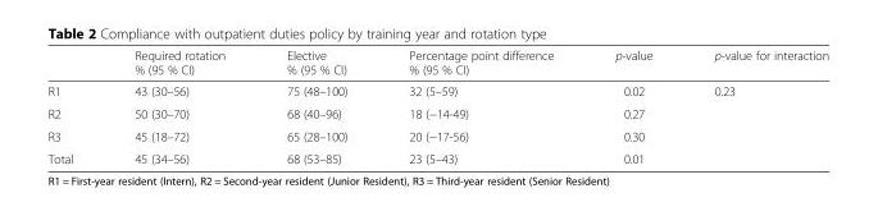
<table><thead><tr><td></td><td>Required rotation % (95 % CI)</td><td>Elective % (95 % CI)</td><td>Percentage point difference % (95 % CI)</td><td>p-value</td><td>p-value for interaction</td></tr></thead><tbody><tr><td>R1</td><td>43 (30–56)</td><td>75 (48–100)</td><td>32 (5–59)</td><td>0.02</td><td rowspan="3">0.23</td></tr><tr><td>R2</td><td>50 (30–70)</td><td>68 (40–96)</td><td>18 (−14-49)</td><td>0.27</td></tr><tr><td>R3</td><td>45 (18–72)</td><td>65 (28–100)</td><td>20 (−17-56)</td><td>0.30</td></tr><tr><td>Total</td><td>45 (34–56)</td><td>68 (53–85)</td><td>23 (5–43)</td><td>0.01</td><td></td></tr></tbody></table>